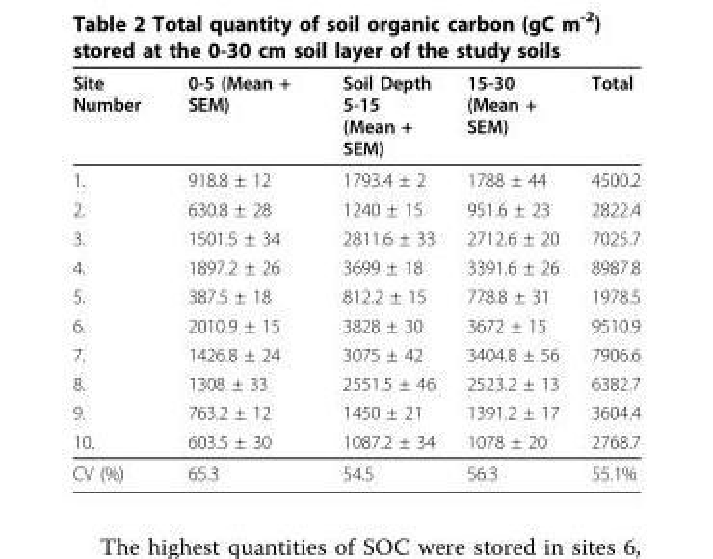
<table><thead><tr><td>Site Number</td><td>0-5 (Mean + SEM)</td><td>Soil Depth 5-15 (Mean + SEM)</td><td>15-30 (Mean + SEM)</td><td>Total</td></tr></thead><tbody><tr><td>1.</td><td>918.8 ± 12</td><td>1793.4 ± 2</td><td>1788 ± 44</td><td>4500.2</td></tr><tr><td>2.</td><td>630.8 ± 28</td><td>1240 ± 15</td><td>951.6 ± 23</td><td>2822.4</td></tr><tr><td>3.</td><td>1501.5 ± 34</td><td>2811.6 ± 33</td><td>2712.6 ± 20</td><td>7025.7</td></tr><tr><td>4.</td><td>1897.2 ± 26</td><td>3699 ± 18</td><td>3391.6 ± 26</td><td>8987.8</td></tr><tr><td>5.</td><td>387.5 ± 18</td><td>812.2 ± 15</td><td>778.8 ± 31</td><td>1978.5</td></tr><tr><td>6.</td><td>2010.9 ± 15</td><td>3828 ± 30</td><td>3672 ± 15</td><td>9510.9</td></tr><tr><td>7.</td><td>1426.8 ± 24</td><td>3075 ± 42</td><td>3404.8 ± 56</td><td>7906.6</td></tr><tr><td>8.</td><td>1308 ± 33</td><td>2551.5 ± 46</td><td>2523.2 ± 13</td><td>6382.7</td></tr><tr><td>9.</td><td>763.2 ± 12</td><td>1450 ± 21</td><td>1391.2 ± 17</td><td>3604.4</td></tr><tr><td>10.</td><td>603.5 ± 30</td><td>1087.2 ± 34</td><td>1078 ± 20</td><td>2768.7</td></tr><tr><td>CV (%)</td><td>65.3</td><td>54.5</td><td>56.3</td><td>55.1%</td></tr></tbody></table>